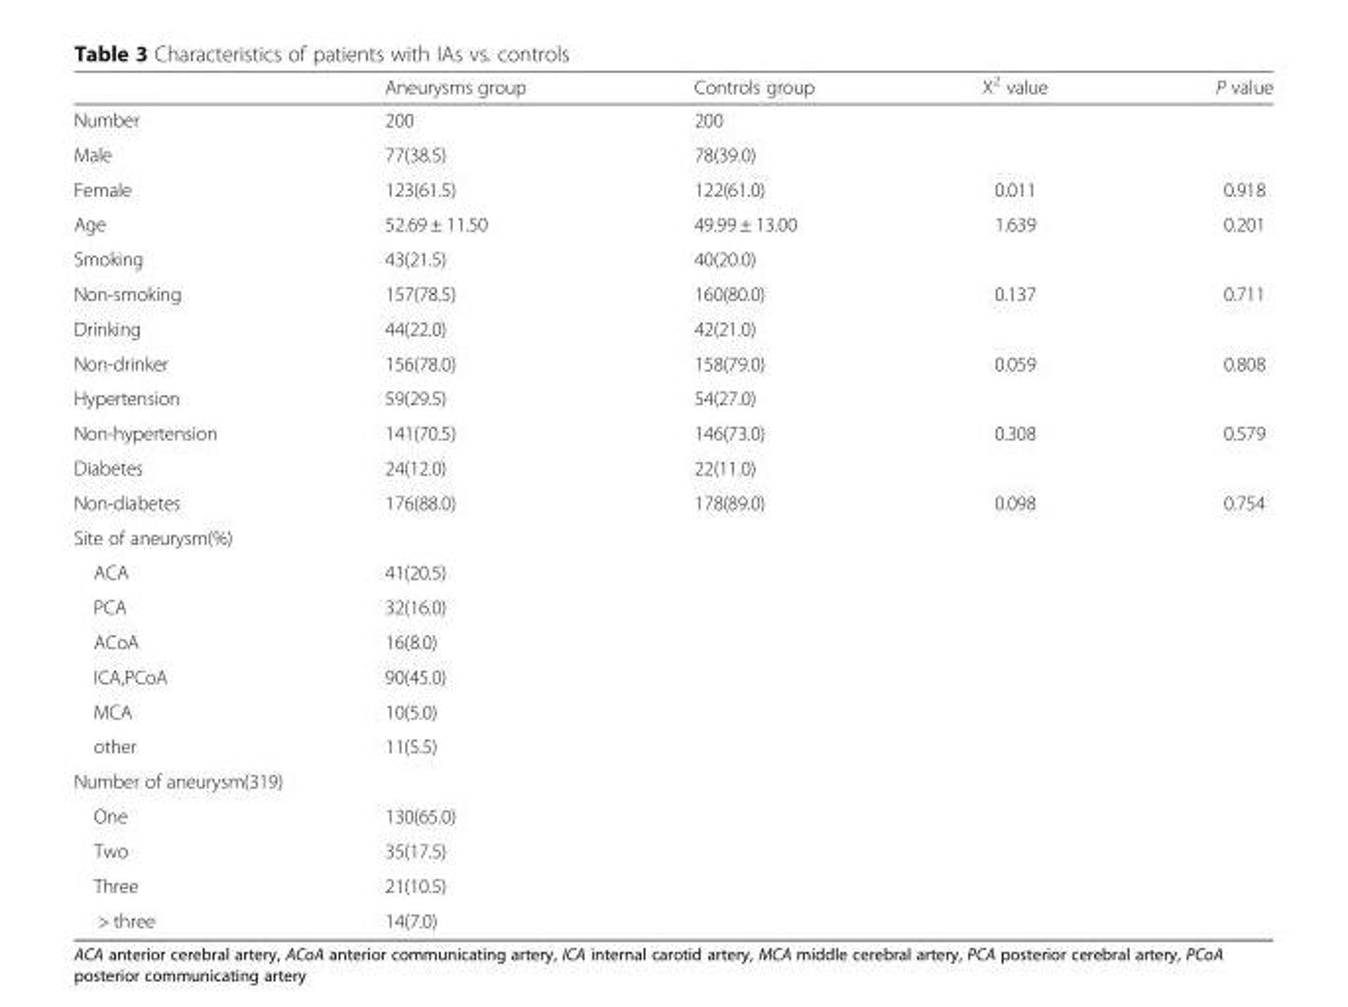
<table><thead><tr><td></td><td>Aneurysms group</td><td>Controls group</td><td>X<sup>2</sup> value</td><td>P value</td></tr></thead><tbody><tr><td>Number</td><td>200</td><td>200</td><td></td><td></td></tr><tr><td>Male</td><td>77(38.5)</td><td>78(39.0)</td><td></td><td></td></tr><tr><td>Female</td><td>123(61.5)</td><td>122(61.0)</td><td>0.011</td><td>0.918</td></tr><tr><td>Age</td><td>52.69 ± 11.50</td><td>49.99 ± 13.00</td><td>1.639</td><td>0.201</td></tr><tr><td>Smoking</td><td>43(21.5)</td><td>40(20.0)</td><td></td><td></td></tr><tr><td>Non-smoking</td><td>157(78.5)</td><td>160(80.0)</td><td>0.137</td><td>0.711</td></tr><tr><td>Drinking</td><td>44(22.0)</td><td>42(21.0)</td><td></td><td></td></tr><tr><td>Non-drinker</td><td>156(78.0)</td><td>158(79.0)</td><td>0.059</td><td>0.808</td></tr><tr><td>Hypertension</td><td>59(29.5)</td><td>54(27.0)</td><td></td><td></td></tr><tr><td>Non-hypertension</td><td>141(70.5)</td><td>146(73.0)</td><td>0.308</td><td>0.579</td></tr><tr><td>Diabetes</td><td>24(12.0)</td><td>22(11.0)</td><td></td><td></td></tr><tr><td>Non-diabetes</td><td>176(88.0)</td><td>178(89.0)</td><td>0.098</td><td>0.754</td></tr><tr><td colspan="5">Site of aneurysm(%)</td></tr><tr><td>ACA</td><td>41(20.5)</td><td></td><td></td><td></td></tr><tr><td>PCA</td><td>32(16.0)</td><td></td><td></td><td></td></tr><tr><td>ACoA</td><td>16(8.0)</td><td></td><td></td><td></td></tr><tr><td>ICA,PCoA</td><td>90(45.0)</td><td></td><td></td><td></td></tr><tr><td>MCA</td><td>10(5.0)</td><td></td><td></td><td></td></tr><tr><td>other</td><td>11(5.5)</td><td></td><td></td><td></td></tr><tr><td colspan="5">Number of aneurysm(319)</td></tr><tr><td>One</td><td>130(65.0)</td><td></td><td></td><td></td></tr><tr><td>Two</td><td>35(17.5)</td><td></td><td></td><td></td></tr><tr><td>Three</td><td>21(10.5)</td><td></td><td></td><td></td></tr><tr><td>&gt; three</td><td>14(7.0)</td><td></td><td></td><td></td></tr></tbody></table>